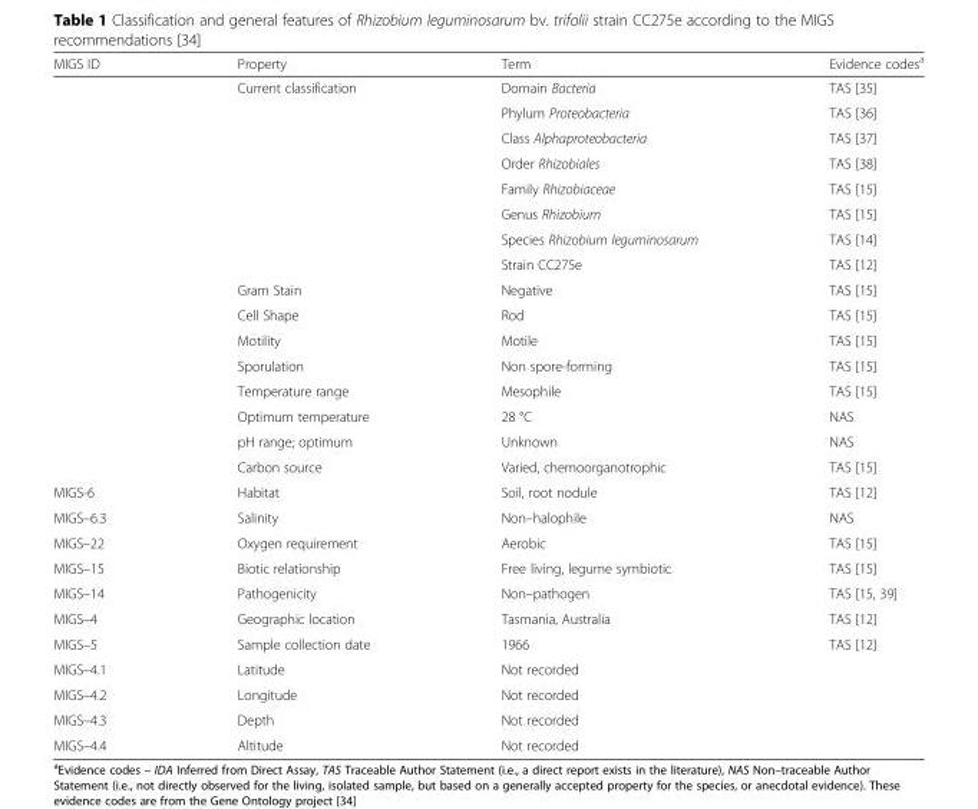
<table><thead><tr><td>MIGS ID</td><td>Property</td><td>Term</td><td>Evidence codes<sup>a</sup></td></tr></thead><tbody><tr><td></td><td>Current classification</td><td>Domain Bacteria</td><td>TAS [35]</td></tr><tr><td></td><td></td><td>Phylum Proteobacteria</td><td>TAS [36]</td></tr><tr><td></td><td></td><td>Class Alphaproteobacteria</td><td>TAS [37]</td></tr><tr><td></td><td></td><td>Order Rhizobiales</td><td>TAS [38]</td></tr><tr><td></td><td></td><td>Family Rhizobiaceae</td><td>TAS [15]</td></tr><tr><td></td><td></td><td>Genus Rhizobium</td><td>TAS [15]</td></tr><tr><td></td><td></td><td>Species Rhizobium leguminosarum</td><td>TAS [14]</td></tr><tr><td></td><td></td><td>Strain CC275e</td><td>TAS [12]</td></tr><tr><td></td><td>Gram Stain</td><td>Negative</td><td>TAS [15]</td></tr><tr><td></td><td>Cell Shape</td><td>Rod</td><td>TAS [15]</td></tr><tr><td></td><td>Motility</td><td>Motile</td><td>TAS [15]</td></tr><tr><td></td><td>Sporulation</td><td>Non spore-forming</td><td>TAS [15]</td></tr><tr><td></td><td>Temperature range</td><td>Mesophile</td><td>TAS [15]</td></tr><tr><td></td><td>Optimum temperature</td><td>28 °C</td><td>NAS</td></tr><tr><td></td><td>pH range; optimum</td><td>Unknown</td><td>NAS</td></tr><tr><td></td><td>Carbon source</td><td>Varied, chemoorganotrophic</td><td>TAS [15]</td></tr><tr><td>MIGS-6</td><td>Habitat</td><td>Soil, root nodule</td><td>TAS [12]</td></tr><tr><td>MIGS–6.3</td><td>Salinity</td><td>Non–halophile</td><td>NAS</td></tr><tr><td>MIGS–22</td><td>Oxygen requirement</td><td>Aerobic</td><td>TAS [15]</td></tr><tr><td>MIGS–15</td><td>Biotic relationship</td><td>Free living, legume symbiotic</td><td>TAS [15]</td></tr><tr><td>MIGS–14</td><td>Pathogenicity</td><td>Non–pathogen</td><td>TAS [15, 39]</td></tr><tr><td>MIGS–4</td><td>Geographic location</td><td>Tasmania, Australia</td><td>TAS [12]</td></tr><tr><td>MIGS–5</td><td>Sample collection date</td><td>1966</td><td>TAS [12]</td></tr><tr><td>MIGS–4.1</td><td>Latitude</td><td>Not recorded</td><td></td></tr><tr><td>MIGS–4.2</td><td>Longitude</td><td>Not recorded</td><td></td></tr><tr><td>MIGS–4.3</td><td>Depth</td><td>Not recorded</td><td></td></tr><tr><td>MIGS–4.4</td><td>Altitude</td><td>Not recorded</td><td></td></tr></tbody></table>